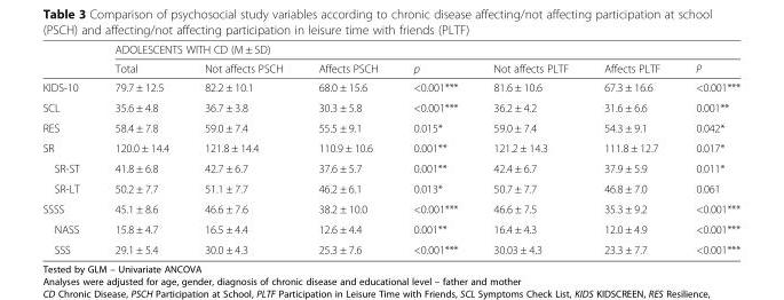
<table><thead><tr><td rowspan="2"></td><td colspan="7">ADOLESCENTS WITH CD (M ± SD)</td></tr><tr><td>Total</td><td>Not affects PSCH</td><td>Affects PSCH</td><td>p</td><td>Not affects PLTF</td><td>Affects PLTF</td><td>P</td></tr></thead><tbody><tr><td>KIDS-10</td><td>79.7 ± 12.5</td><td>82.2 ± 10.1</td><td>68.0 ± 15.6</td><td>&lt;0.001***</td><td>81.6 ± 10.6</td><td>67.3 ± 16.6</td><td>&lt;0.001***</td></tr><tr><td>SCL</td><td>35.6 ± 4.8</td><td>36.7 ± 3.8</td><td>30.3 ± 5.8</td><td>&lt;0.001***</td><td>36.2 ± 4.2</td><td>31.6 ± 6.6</td><td>0.001**</td></tr><tr><td>RES</td><td>58.4 ± 7.8</td><td>59.0 ± 7.4</td><td>55.5 ± 9.1</td><td>0.015*</td><td>59.0 ± 7.4</td><td>54.3 ± 9.1</td><td>0.042*</td></tr><tr><td>SR</td><td>120.0 ± 14.4</td><td>121.8 ± 14.4</td><td>110.9 ± 10.6</td><td>0.001**</td><td>121.2 ± 14.3</td><td>111.8 ± 12.7</td><td>0.017*</td></tr><tr><td>SR-ST</td><td>41.8 ± 6.8</td><td>42.7 ± 6.7</td><td>37.6 ± 5.7</td><td>0.001**</td><td>42.4 ± 6.7</td><td>37.9 ± 5.9</td><td>0.011*</td></tr><tr><td>SR-LT</td><td>50.2 ± 7.7</td><td>51.1 ± 7.7</td><td>46.2 ± 6.1</td><td>0.013*</td><td>50.7 ± 7.7</td><td>46.8 ± 7.0</td><td>0.061</td></tr><tr><td>SSSS</td><td>45.1 ± 8.6</td><td>46.6 ± 7.6</td><td>38.2 ± 10.0</td><td>&lt;0.001***</td><td>46.6 ± 7.5</td><td>35.3 ± 9.2</td><td>&lt;0.001***</td></tr><tr><td>NASS</td><td>15.8 ± 4.7</td><td>16.5 ± 4.4</td><td>12.6 ± 4.4</td><td>0.001**</td><td>16.4 ± 4.3</td><td>12.0 ± 4.9</td><td>&lt;0.001***</td></tr><tr><td>SSS</td><td>29.1 ± 5.4</td><td>30.0 ± 4.3</td><td>25.3 ± 7.6</td><td>&lt;0.001***</td><td>30.03 ± 4.3</td><td>23.3 ± 7.7</td><td>&lt;0.001***</td></tr></tbody></table>